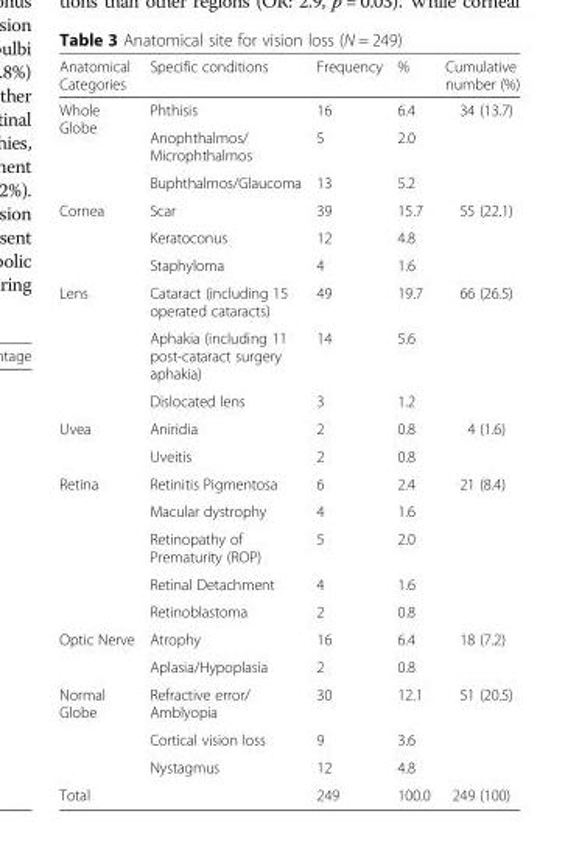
<table><thead><tr><td>Anatomical Categories</td><td>Specific conditions</td><td>Frequency</td><td>%</td><td>Cumulative number (%)</td></tr></thead><tbody><tr><td rowspan="3">Whole Globe</td><td>Phthisis</td><td>16</td><td>6.4</td><td rowspan="3">34 (13.7)</td></tr><tr><td>Anophthalmos/ Microphthalmos</td><td>5</td><td>2.0</td></tr><tr><td>Buphthalmos/Glaucoma</td><td>13</td><td>5.2</td></tr><tr><td rowspan="3">Cornea</td><td>Scar</td><td>39</td><td>15.7</td><td rowspan="3">55 (22.1)</td></tr><tr><td>Keratoconus</td><td>12</td><td>4.8</td></tr><tr><td>Staphyloma</td><td>4</td><td>1.6</td></tr><tr><td rowspan="3">Lens</td><td>Cataract (including 15 operated cataracts)</td><td>49</td><td>19.7</td><td rowspan="3">66 (26.5)</td></tr><tr><td>Aphakia (including 11 post-cataract surgery aphakia)</td><td>14</td><td>5.6</td></tr><tr><td>Dislocated lens</td><td>3</td><td>1.2</td></tr><tr><td rowspan="2">Uvea</td><td>Aniridia</td><td>2</td><td>0.8</td><td rowspan="2">4 (1.6)</td></tr><tr><td>Uveitis</td><td>2</td><td>0.8</td></tr><tr><td rowspan="5">Retina</td><td>Retinitis Pigmentosa</td><td>6</td><td>2.4</td><td rowspan="5">21 (8.4)</td></tr><tr><td>Macular dystrophy</td><td>4</td><td>1.6</td></tr><tr><td>Retinopathy of Prematurity (ROP)</td><td>5</td><td>2.0</td></tr><tr><td>Retinal Detachment</td><td>4</td><td>1.6</td></tr><tr><td>Retinoblastoma</td><td>2</td><td>0.8</td></tr><tr><td rowspan="2">Optic Nerve</td><td>Atrophy</td><td>16</td><td>6.4</td><td rowspan="2">18 (7.2)</td></tr><tr><td>Aplasia/Hypoplasia</td><td>2</td><td>0.8</td></tr><tr><td rowspan="3">Normal Globe</td><td>Refractive error/ Amblyopia</td><td>30</td><td>12.1</td><td rowspan="3">51 (20.5)</td></tr><tr><td>Cortical vision loss</td><td>9</td><td>3.6</td></tr><tr><td>Nystagmus</td><td>12</td><td>4.8</td></tr><tr><td colspan="2">Total</td><td>249</td><td>100.0</td><td>249 (100)</td></tr></tbody></table>